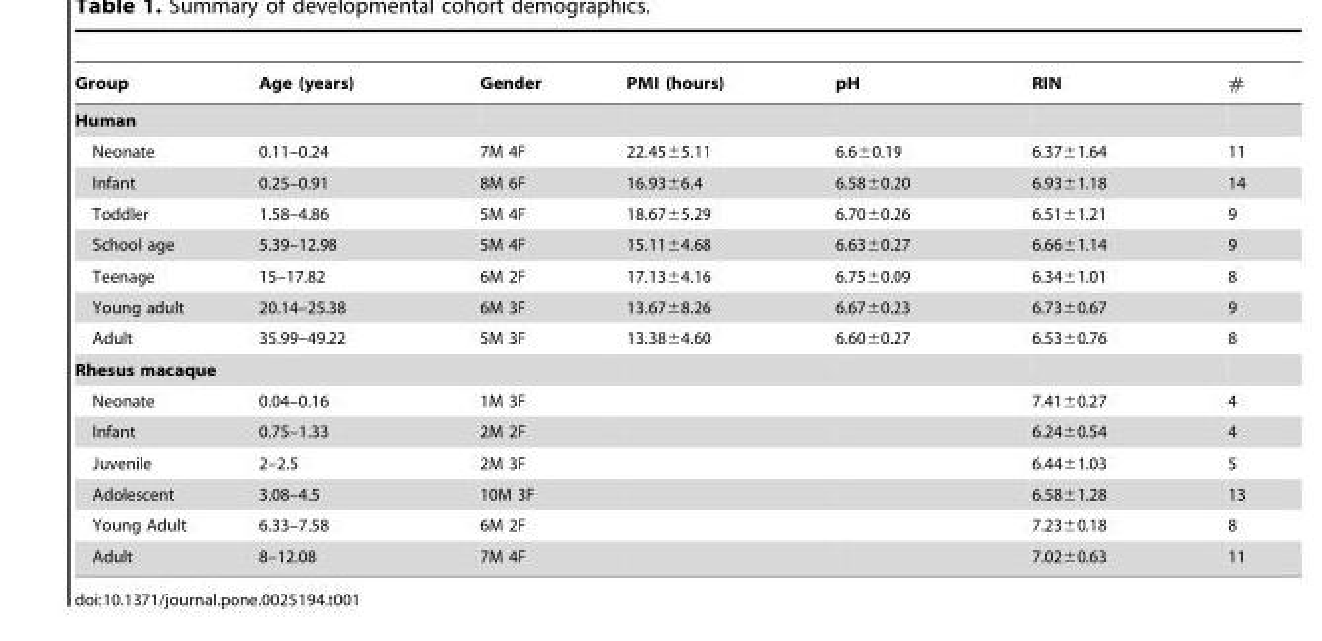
<table><thead><tr><td>Group</td><td>Age (years)</td><td>Gender</td><td>PMI (hours)</td><td>pH</td><td>RIN</td><td>#</td></tr></thead><tbody><tr><td colspan="7">Human</td></tr><tr><td>Neonate</td><td>0.11–0.24</td><td>7M 4F</td><td>22.45±5.11</td><td>6.6±0.19</td><td>6.37±1.64</td><td>11</td></tr><tr><td>Infant</td><td>0.25–0.91</td><td>8M 6F</td><td>16.93±6.4</td><td>6.58±0.20</td><td>6.93±1.18</td><td>14</td></tr><tr><td>Toddler</td><td>1.58–4.86</td><td>5M 4F</td><td>18.67±5.29</td><td>6.70±0.26</td><td>6.51±1.21</td><td>9</td></tr><tr><td>School age</td><td>5.39–12.98</td><td>5M 4F</td><td>15.11±4.68</td><td>6.63±0.27</td><td>6.66±1.14</td><td>9</td></tr><tr><td>Teenage</td><td>15–17.82</td><td>6M 2F</td><td>17.13±4.16</td><td>6.75±0.09</td><td>6.34±1.01</td><td>8</td></tr><tr><td>Young adult</td><td>20.14–25.38</td><td>6M 3F</td><td>13.67±8.26</td><td>6.67±0.23</td><td>6.73±0.67</td><td>9</td></tr><tr><td>Adult</td><td>35.99–49.22</td><td>5M 3F</td><td>13.38±4.60</td><td>6.60±0.27</td><td>6.53±0.76</td><td>8</td></tr><tr><td colspan="7">Rhesus macaque</td></tr><tr><td>Neonate</td><td>0.04–0.16</td><td>1M 3F</td><td></td><td></td><td>7.41±0.27</td><td>4</td></tr><tr><td>Infant</td><td>0.75–1.33</td><td>2M 2F</td><td></td><td></td><td>6.24±0.54</td><td>4</td></tr><tr><td>Juvenile</td><td>2–2.5</td><td>2M 3F</td><td></td><td></td><td>6.44±1.03</td><td>5</td></tr><tr><td>Adolescent</td><td>3.08–4.5</td><td>10M 3F</td><td></td><td></td><td>6.58±1.28</td><td>13</td></tr><tr><td>Young Adult</td><td>6.33–7.58</td><td>6M 2F</td><td></td><td></td><td>7.23±0.18</td><td>8</td></tr><tr><td>Adult</td><td>8–12.08</td><td>7M 4F</td><td></td><td></td><td>7.02±0.63</td><td>11</td></tr></tbody></table>